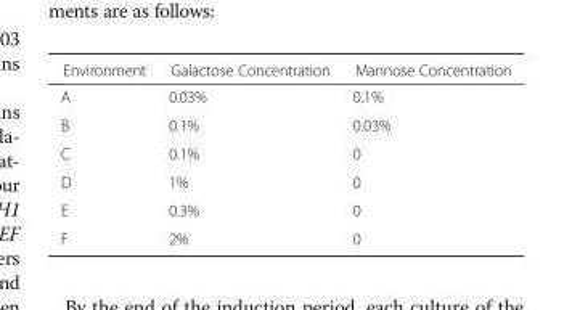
<table><thead><tr><td>Environment</td><td>Galactose Concentration</td><td>Mannose Concentration</td></tr></thead><tbody><tr><td>A</td><td>0.03%</td><td>0.1%</td></tr><tr><td>B</td><td>0.1%</td><td>0.03%</td></tr><tr><td>C</td><td>0.1%</td><td>0</td></tr><tr><td>D</td><td>1%</td><td>0</td></tr><tr><td>E</td><td>0.3%</td><td>0</td></tr><tr><td>F</td><td>2%</td><td>0</td></tr></tbody></table>